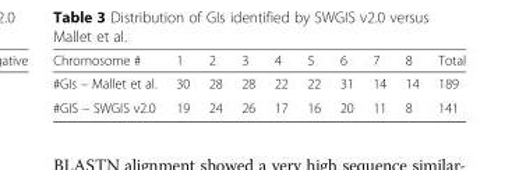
<table><thead><tr><td>Chromosome #</td><td>1</td><td>2</td><td>3</td><td>4</td><td>5</td><td>6</td><td>7</td><td>8</td><td>Total</td></tr></thead><tbody><tr><td>#GIs – Mallet et al.</td><td>30</td><td>28</td><td>28</td><td>22</td><td>22</td><td>31</td><td>14</td><td>14</td><td>189</td></tr><tr><td>#GIS – SWGIS v2.0</td><td>19</td><td>24</td><td>26</td><td>17</td><td>16</td><td>20</td><td>11</td><td>8</td><td>141</td></tr></tbody></table>